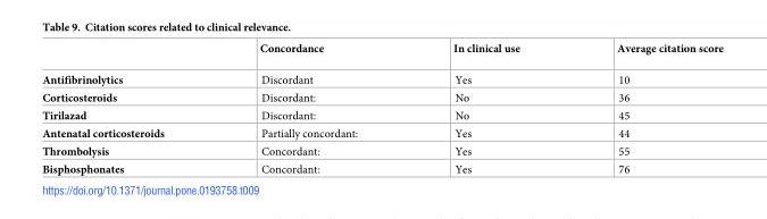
<table><thead><tr><td></td><td>Concordance</td><td>In clinical use</td><td>Average citation score</td></tr></thead><tbody><tr><td>Antifibrinolytics</td><td>Discordant</td><td>Yes</td><td>10</td></tr><tr><td>Corticosteroids</td><td>Discordant:</td><td>No</td><td>36</td></tr><tr><td>Tirilazad</td><td>Discordant:</td><td>No</td><td>45</td></tr><tr><td>Antenatal corticosteroids</td><td>Partially concordant:</td><td>Yes</td><td>44</td></tr><tr><td>Thrombolysis</td><td>Concordant:</td><td>Yes</td><td>55</td></tr><tr><td>Bisphosphonates</td><td>Concordant:</td><td>Yes</td><td>76</td></tr></tbody></table>